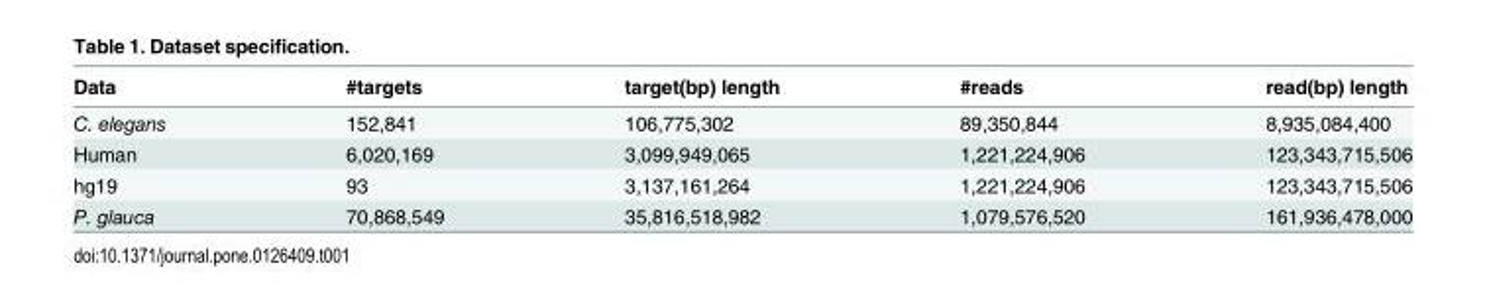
<table><thead><tr><td>Data</td><td>#targets</td><td>target(bp) length</td><td>#reads</td><td>read(bp) length</td></tr></thead><tbody><tr><td>C. elegans</td><td>152,841</td><td>106,775,302</td><td>89,350,844</td><td>8,935,084,400</td></tr><tr><td>Human</td><td>6,020,169</td><td>3,099,949,065</td><td>1,221,224,906</td><td>123,343,715,506</td></tr><tr><td>hg19</td><td>93</td><td>3,137,161,264</td><td>1,221,224,906</td><td>123,343,715,506</td></tr><tr><td>P. glauca</td><td>70,868,549</td><td>35,816,518,982</td><td>1,079,576,520</td><td>161,936,478,000</td></tr></tbody></table>